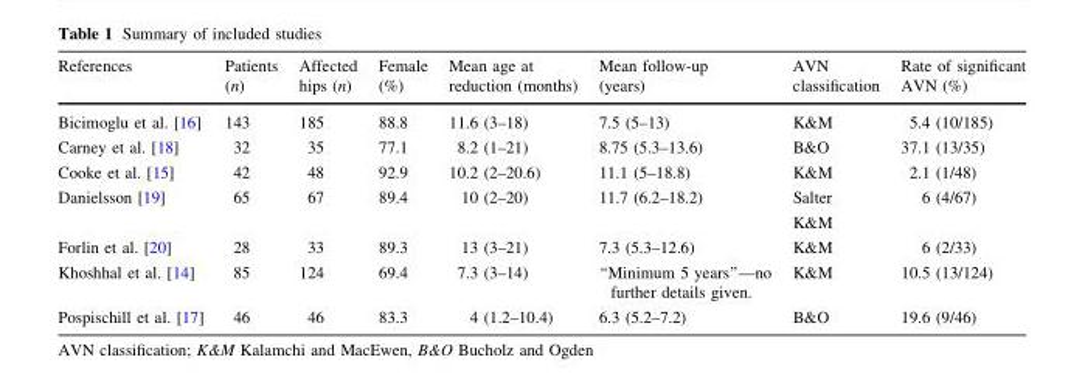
<table><thead><tr><td>References</td><td>Patients (n)</td><td>Affected hips (n)</td><td>Female (%)</td><td>Mean age at reduction (months)</td><td>Mean follow-up (years)</td><td>AVN classification</td><td>Rate of significant AVN (%)</td></tr></thead><tbody><tr><td>Bicimoglu et al. [16]</td><td>143</td><td>185</td><td>88.8</td><td>11.6 (3–18)</td><td>7.5 (5–13)</td><td>K&amp;M</td><td>5.4 (10/185)</td></tr><tr><td>Carney et al. [18]</td><td>32</td><td>35</td><td>77.1</td><td>8.2 (1–21)</td><td>8.75 (5.3–13.6)</td><td>B&amp;O</td><td>37.1 (13/35)</td></tr><tr><td>Cooke et al. [15]</td><td>42</td><td>48</td><td>92.9</td><td>10.2 (2–20.6)</td><td>11.1 (5–18.8)</td><td>K&amp;M</td><td>2.1 (1/48)</td></tr><tr><td>Danielsson [19]</td><td>65</td><td>67</td><td>89.4</td><td>10 (2–20)</td><td>11.7 (6.2–18.2)</td><td>Salter K&amp;M</td><td>6 (4/67)</td></tr><tr><td>Forlin et al. [20]</td><td>28</td><td>33</td><td>89.3</td><td>13 (3–21)</td><td>7.3 (5.3–12.6)</td><td>K&amp;M</td><td>6 (2/33)</td></tr><tr><td>Khoshhal et al. [14]</td><td>85</td><td>124</td><td>69.4</td><td>7.3 (3–14)</td><td>‘‘Minimum 5 years’’—no further details given.</td><td>K&amp;M</td><td>10.5 (13/124)</td></tr><tr><td>Pospischill et al. [17]</td><td>46</td><td>46</td><td>83.3</td><td>4 (1.2–10.4)</td><td>6.3 (5.2–7.2)</td><td>B&amp;O</td><td>19.6 (9/46)</td></tr></tbody></table>